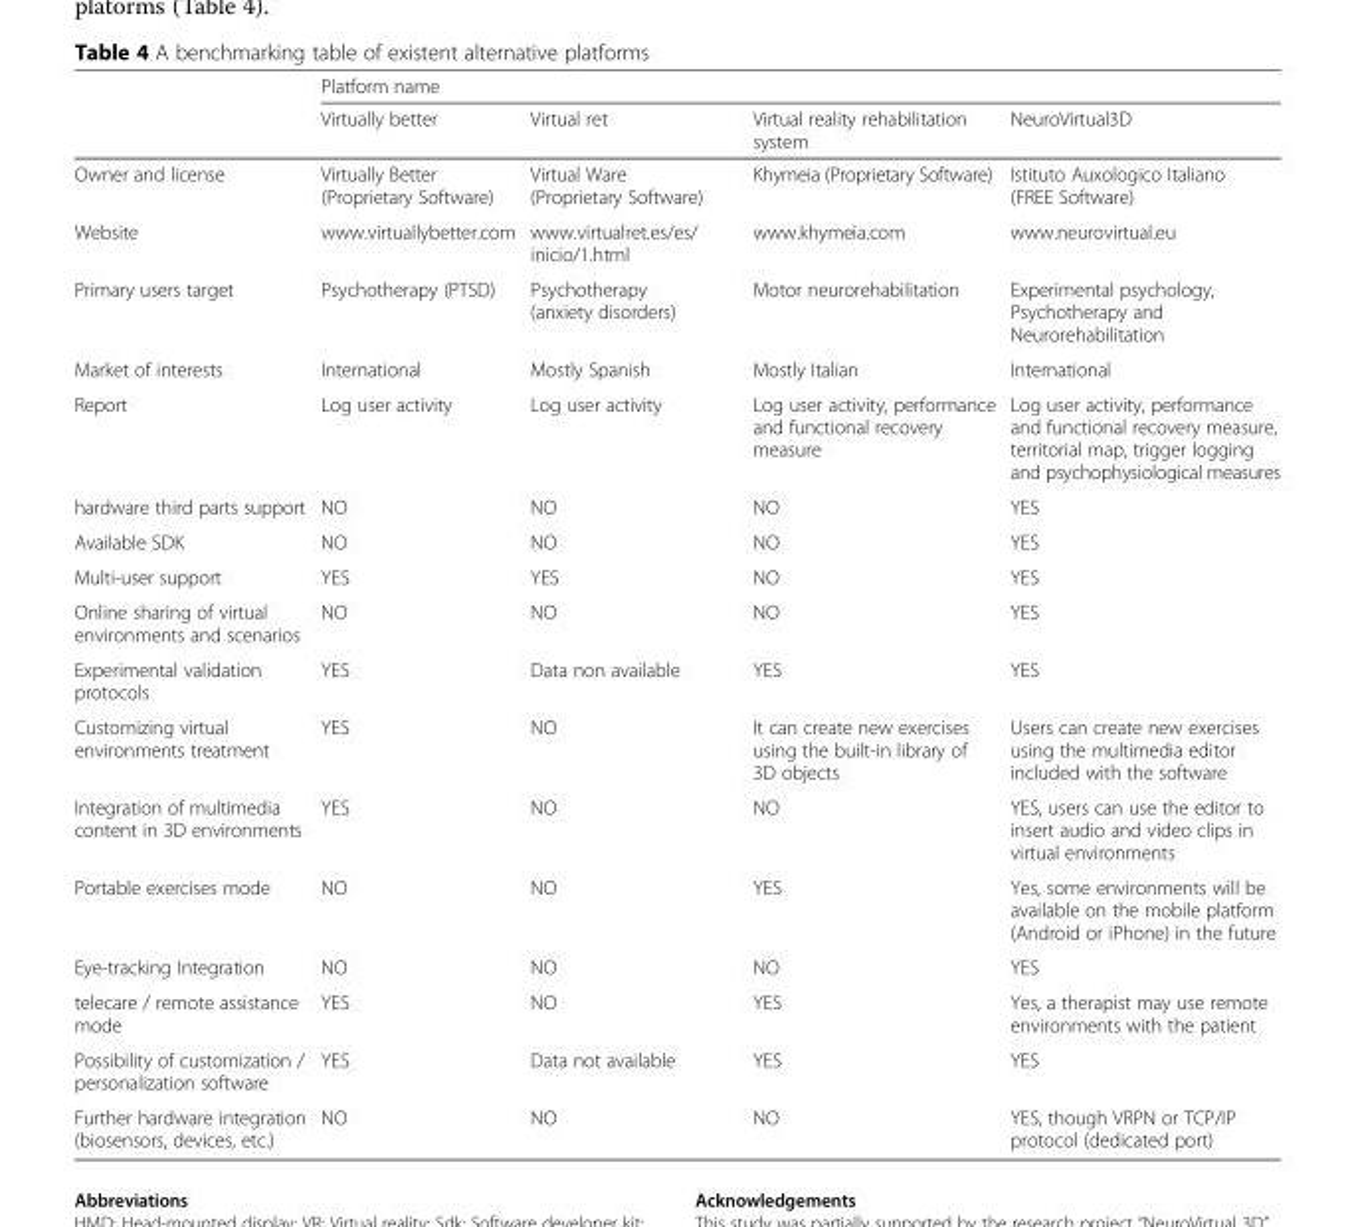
<table><thead><tr><td rowspan="2"></td><td colspan="4">Platform name</td></tr><tr><td>Virtually better</td><td>Virtual ret</td><td>Virtual reality rehabilitation system</td><td>NeuroVirtual3D</td></tr></thead><tbody><tr><td>Owner and license</td><td>Virtually Better (Proprietary Software)</td><td>Virtual Ware (Proprietary Software)</td><td>Khymeia (Proprietary Software)</td><td>Istituto Auxologico Italiano (FREE Software)</td></tr><tr><td>Website</td><td>www.virtuallybetter.com</td><td>www.virtualret.es/es/ inicio/1.html</td><td>www.khymeia.com</td><td>www.neurovirtual.eu</td></tr><tr><td>Primary users target</td><td>Psychotherapy (PTSD)</td><td>Psychotherapy (anxiety disorders)</td><td>Motor neurorehabilitation</td><td>Experimental psychology, Psychotherapy and Neurorehabilitation</td></tr><tr><td>Market of interests</td><td>International</td><td>Mostly Spanish</td><td>Mostly Italian</td><td>International</td></tr><tr><td>Report</td><td>Log user activity</td><td>Log user activity</td><td>Log user activity, performance and functional recovery measure</td><td>Log user activity, performance and functional recovery measure, territorial map, trigger logging and psychophysiological measures</td></tr><tr><td>hardware third parts support</td><td>NO</td><td>NO</td><td>NO</td><td>YES</td></tr><tr><td>Available SDK</td><td>NO</td><td>NO</td><td>NO</td><td>YES</td></tr><tr><td>Multi-user support</td><td>YES</td><td>YES</td><td>NO</td><td>YES</td></tr><tr><td>Online sharing of virtual environments and scenarios</td><td>NO</td><td>NO</td><td>NO</td><td>YES</td></tr><tr><td>Experimental validation protocols</td><td>YES</td><td>Data non available</td><td>YES</td><td>YES</td></tr><tr><td>Customizing virtual environments treatment</td><td>YES</td><td>NO</td><td>It can create new exercises using the built-in library of 3D objects</td><td>Users can create new exercises using the multimedia editor included with the software</td></tr><tr><td>Integration of multimedia content in 3D environments</td><td>YES</td><td>NO</td><td>NO</td><td>YES, users can use the editor to insert audio and video clips in virtual environments</td></tr><tr><td>Portable exercises mode</td><td>NO</td><td>NO</td><td>YES</td><td>Yes, some environments will be available on the mobile platform (Android or iPhone) in the future</td></tr><tr><td>Eye-tracking Integration</td><td>NO</td><td>NO</td><td>NO</td><td>YES</td></tr><tr><td>telecare / remote assistance mode</td><td>YES</td><td>NO</td><td>YES</td><td>Yes, a therapist may use remote environments with the patient</td></tr><tr><td>Possibility of customization / personalization software</td><td>YES</td><td>Data not available</td><td>YES</td><td>YES</td></tr><tr><td>Further hardware integration (biosensors, devices, etc.)</td><td>NO</td><td>NO</td><td>NO</td><td>YES, though VRPN or TCP/IP protocol (dedicated port)</td></tr></tbody></table>